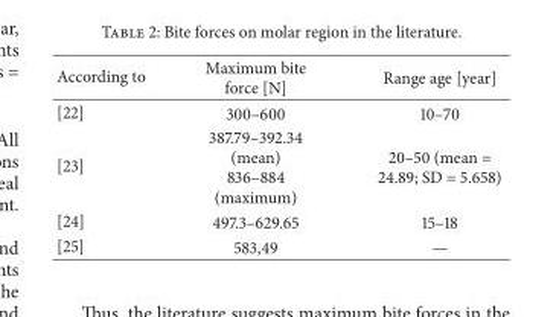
<table><thead><tr><td>According to</td><td>Maximum bite force [N]</td><td>Range age [year]</td></tr></thead><tbody><tr><td>[22]</td><td>300–600</td><td>10–70</td></tr><tr><td>[23]</td><td>387.79–392.34 (mean) 836–884 (maximum)</td><td>20–50 (mean = 24.89; SD = 5.658)</td></tr><tr><td>[24]</td><td>497.3–629.65</td><td>15–18</td></tr><tr><td>[25]</td><td>583,49</td><td>—</td></tr></tbody></table>